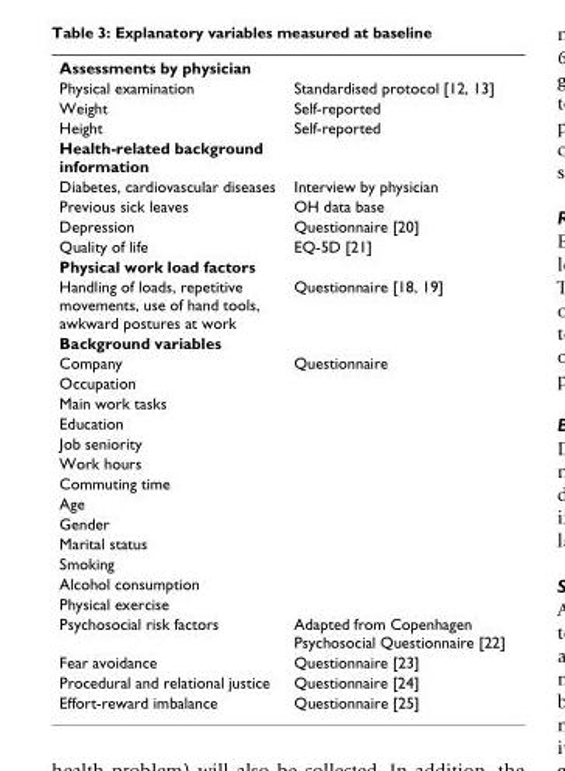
<table><tbody><tr><td colspan="2">Assessments by physician</td></tr><tr><td>Physical examination</td><td>Standardised protocol [12, 13]</td></tr><tr><td>Weight</td><td>Self-reported</td></tr><tr><td>Height</td><td>Self-reported</td></tr><tr><td colspan="2">Health-related background information</td></tr><tr><td>Diabetes, cardiovascular diseases</td><td>Interview by physician</td></tr><tr><td>Previous sick leaves</td><td>OH data base</td></tr><tr><td>Depression</td><td>Questionnaire [20]</td></tr><tr><td>Quality of life</td><td>EQ-5D [21]</td></tr><tr><td colspan="2">Physical work load factors</td></tr><tr><td>Handling of loads, repetitive movements, use of hand tools, awkward postures at work</td><td>Questionnaire [18, 19]</td></tr><tr><td colspan="2">Background variables</td></tr><tr><td>Company</td><td>Questionnaire</td></tr><tr><td colspan="2">Occupation</td></tr><tr><td colspan="2">Main work tasks</td></tr><tr><td colspan="2">Education</td></tr><tr><td colspan="2">Job seniority</td></tr><tr><td colspan="2">Work hours</td></tr><tr><td colspan="2">Commuting time</td></tr><tr><td colspan="2">Age</td></tr><tr><td colspan="2">Gender</td></tr><tr><td colspan="2">Marital status</td></tr><tr><td colspan="2">Smoking</td></tr><tr><td colspan="2">Alcohol consumption</td></tr><tr><td colspan="2">Physical exercise</td></tr><tr><td>Psychosocial risk factors</td><td>Adapted from Copenhagen Psychosocial Questionnaire [22]</td></tr><tr><td>Fear avoidance</td><td>Questionnaire [23]</td></tr><tr><td>Procedural and relational justice</td><td>Questionnaire [24]</td></tr><tr><td>Effort-reward imbalance</td><td>Questionnaire [25]</td></tr></tbody></table>